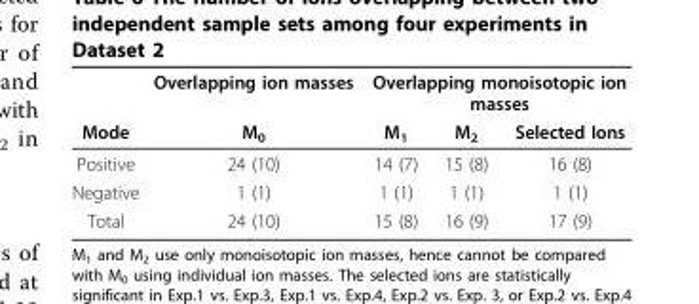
<table><thead><tr><td rowspan="2">Mode</td><td rowspan="2">Overlapping ion masses M<sub>0</sub></td><td colspan="3">Overlapping monoisotopic ion masses</td></tr><tr><td>M<sub>1</sub></td><td>M<sub>2</sub></td><td>Selected Ions</td></tr></thead><tbody><tr><td>Positive</td><td>24 (10)</td><td>14 (7)</td><td>15 (8)</td><td>16 (8)</td></tr><tr><td>Negative</td><td>1 (1)</td><td>1 (1)</td><td>1 (1)</td><td>1 (1)</td></tr><tr><td>Total</td><td>24 (10)</td><td>15 (8)</td><td>16 (9)</td><td>17 (9)</td></tr></tbody></table>